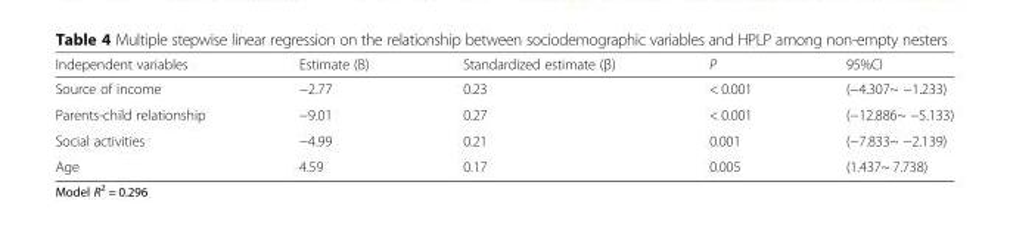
<table><thead><tr><td>Independent variables</td><td>Estimate (B)</td><td>Standardized estimate (β)</td><td>P</td><td>95%CI</td></tr></thead><tbody><tr><td>Source of income</td><td>−2.77</td><td>0.23</td><td>&lt; 0.001</td><td>(−4.307~ −1.233)</td></tr><tr><td>Parents-child relationship</td><td>−9.01</td><td>0.27</td><td>&lt; 0.001</td><td>(−12.886~ −5.133)</td></tr><tr><td>Social activities</td><td>−4.99</td><td>0.21</td><td>0.001</td><td>(−7.833~ −2.139)</td></tr><tr><td>Age</td><td>4.59</td><td>0.17</td><td>0.005</td><td>(1.437~ 7.738)</td></tr></tbody></table>